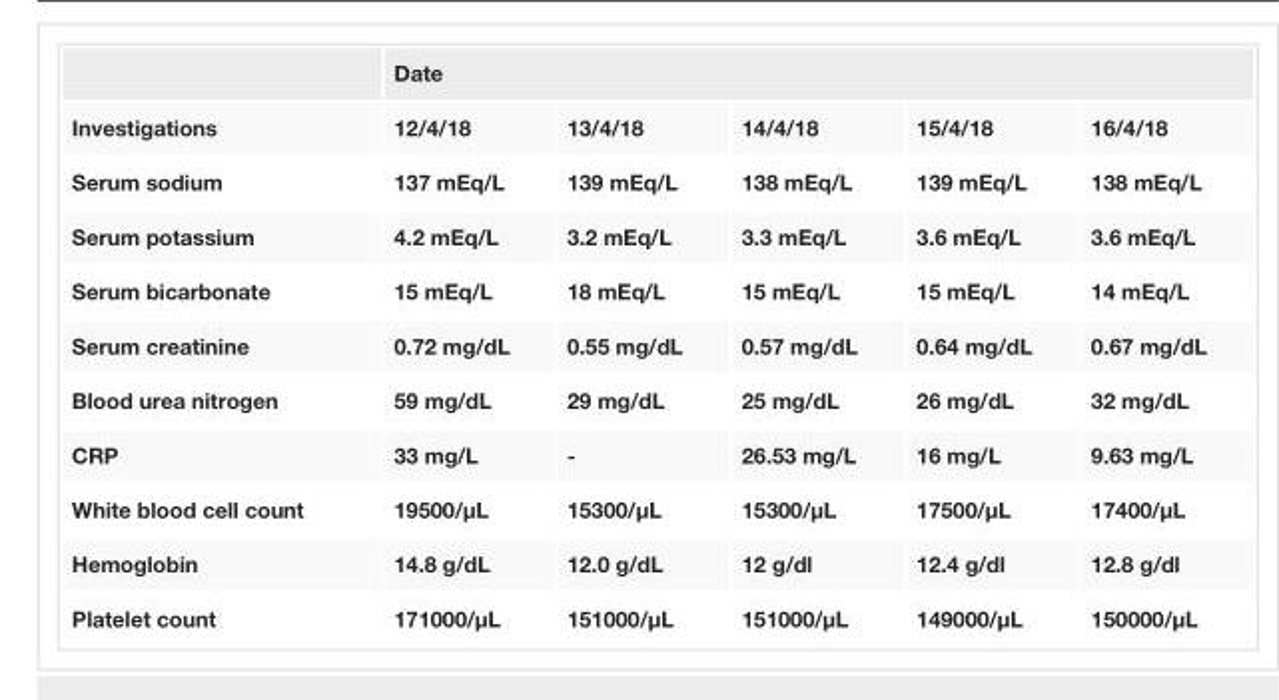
<table><thead><tr><td rowspan="2">Investigations</td><td colspan="5">Date</td></tr><tr><td>12/4/18</td><td>13/4/18</td><td>14/4/18</td><td>15/4/18</td><td>16/4/18</td></tr></thead><tbody><tr><td>Serum sodium</td><td>137 mEq/L</td><td>139 mEq/L</td><td>138 mEq/L</td><td>139 mEq/L</td><td>138 mEq/L</td></tr><tr><td>Serum potassium</td><td>4.2 mEq/L</td><td>3.2 mEq/L</td><td>3.3 mEq/L</td><td>3.6 mEq/L</td><td>3.6 mEq/L</td></tr><tr><td>Serum bicarbonate</td><td>15 mEq/L</td><td>18 mEq/L</td><td>15 mEq/L</td><td>15 mEq/L</td><td>14 mEq/L</td></tr><tr><td>Serum creatinine</td><td>0.72 mg/dL</td><td>0.55 mg/dL</td><td>0.57 mg/dL</td><td>0.64 mg/dL</td><td>0.67 mg/dL</td></tr><tr><td>Blood urea nitrogen</td><td>59 mg/dL</td><td>29 mg/dL</td><td>25 mg/dL</td><td>26 mg/dL</td><td>32 mg/dL</td></tr><tr><td>CRP</td><td>33 mg/L</td><td>-</td><td>26.53 mg/L</td><td>16 mg/L</td><td>9.63 mg/L</td></tr><tr><td>White blood cell count</td><td>19500/µL</td><td>15300/µL</td><td>15300/µL</td><td>17500/µL</td><td>17400/µL</td></tr><tr><td>Hemoglobin</td><td>14.8 g/dL</td><td>12.0 g/dL</td><td>12 g/dl</td><td>12.4 g/dl</td><td>12.8 g/dl</td></tr><tr><td>Platelet count</td><td>171000/µL</td><td>151000/µL</td><td>151000/µL</td><td>149000/µL</td><td>150000/µL</td></tr></tbody></table>